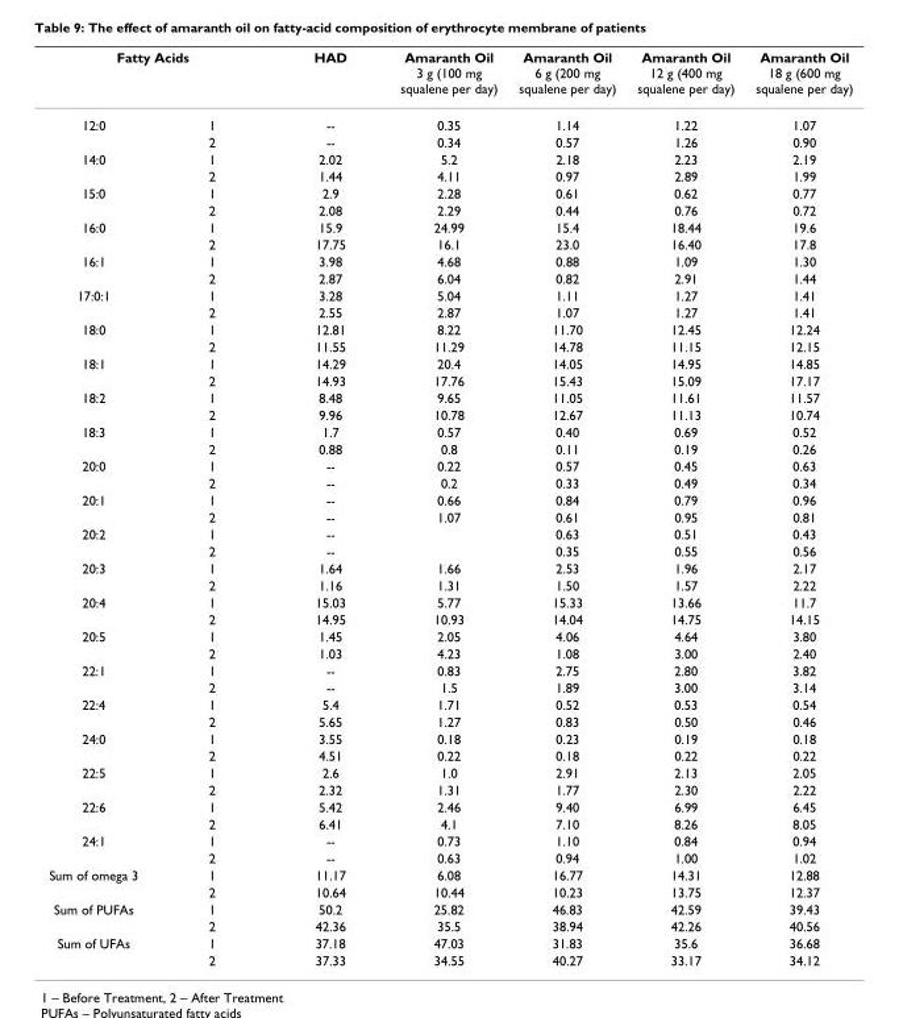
<table><thead><tr><td colspan="2">Fatty Acids</td><td rowspan="2">HAD --</td><td rowspan="2">Amaranth Oil 3 g (100 mg squalene per day) 0.35</td><td rowspan="2">Amaranth Oil 6 g (200 mg squalene per day) 1.14</td><td rowspan="2">Amaranth Oil 12 g (400 mg squalene per day) 1.22</td><td rowspan="2">Amaranth Oil 18 g (600 mg squalene per day) 1.07</td></tr><tr><td>12:0</td><td>1</td></tr></thead><tbody><tr><td></td><td>2</td><td>--</td><td>0.34</td><td>0.57</td><td>1.26</td><td>0.90</td></tr><tr><td rowspan="2">14:0</td><td>1</td><td>2.02</td><td>5.2</td><td>2.18</td><td>2.23</td><td>2.19</td></tr><tr><td>2</td><td>1.44</td><td>4.11</td><td>0.97</td><td>2.89</td><td>1.99</td></tr><tr><td rowspan="2">15:0</td><td>1</td><td>2.9</td><td>2.28</td><td>0.61</td><td>0.62</td><td>0.77</td></tr><tr><td>2</td><td>2.08</td><td>2.29</td><td>0.44</td><td>0.76</td><td>0.72</td></tr><tr><td rowspan="2">16:0</td><td>1</td><td>15.9</td><td>24.99</td><td>15.4</td><td>18.44</td><td>19.6</td></tr><tr><td>2</td><td>17.75</td><td>16.1</td><td>23.0</td><td>16.40</td><td>17.8</td></tr><tr><td rowspan="2">16:1</td><td>1</td><td>3.98</td><td>4.68</td><td>0.88</td><td>1.09</td><td>1.30</td></tr><tr><td>2</td><td>2.87</td><td>6.04</td><td>0.82</td><td>2.91</td><td>1.44</td></tr><tr><td rowspan="2">17:0:1</td><td>1</td><td>3.28</td><td>5.04</td><td>1.11</td><td>1.27</td><td>1.41</td></tr><tr><td>2</td><td>2.55</td><td>2.87</td><td>1.07</td><td>1.27</td><td>1.41</td></tr><tr><td rowspan="2">18:0</td><td>1</td><td>12.81</td><td>8.22</td><td>11.70</td><td>12.45</td><td>12.24</td></tr><tr><td>2</td><td>11.55</td><td>11.29</td><td>14.78</td><td>11.15</td><td>12.15</td></tr><tr><td rowspan="2">18:1</td><td>1</td><td>14.29</td><td>20.4</td><td>14.05</td><td>14.95</td><td>14.85</td></tr><tr><td>2</td><td>14.93</td><td>17.76</td><td>15.43</td><td>15.09</td><td>17.17</td></tr><tr><td rowspan="2">18:2</td><td>1</td><td>8.48</td><td>9.65</td><td>11.05</td><td>11.61</td><td>11.57</td></tr><tr><td>2</td><td>9.96</td><td>10.78</td><td>12.67</td><td>11.13</td><td>10.74</td></tr><tr><td rowspan="2">18:3</td><td>1</td><td>1.7</td><td>0.57</td><td>0.40</td><td>0.69</td><td>0.52</td></tr><tr><td>2</td><td>0.88</td><td>0.8</td><td>0.11</td><td>0.19</td><td>0.26</td></tr><tr><td rowspan="2">20:0</td><td>1</td><td>--</td><td>0.22</td><td>0.57</td><td>0.45</td><td>0.63</td></tr><tr><td>2</td><td>--</td><td>0.2</td><td>0.33</td><td>0.49</td><td>0.34</td></tr><tr><td rowspan="2">20:1</td><td>1</td><td>--</td><td>0.66</td><td>0.84</td><td>0.79</td><td>0.96</td></tr><tr><td>2</td><td>--</td><td>1.07</td><td>0.61</td><td>0.95</td><td>0.81</td></tr><tr><td rowspan="2">20:2</td><td>1</td><td>--</td><td></td><td>0.63</td><td>0.51</td><td>0.43</td></tr><tr><td>2</td><td>--</td><td></td><td>0.35</td><td>0.55</td><td>0.56</td></tr><tr><td rowspan="2">20:3</td><td>1</td><td>1.64</td><td>1.66</td><td>2.53</td><td>1.96</td><td>2.17</td></tr><tr><td>2</td><td>1.16</td><td>1.31</td><td>1.50</td><td>1.57</td><td>2.22</td></tr><tr><td rowspan="2">20:4</td><td>1</td><td>15.03</td><td>5.77</td><td>15.33</td><td>13.66</td><td>11.7</td></tr><tr><td>2</td><td>14.95</td><td>10.93</td><td>14.04</td><td>14.75</td><td>14.15</td></tr><tr><td rowspan="2">20:5</td><td>1</td><td>1.45</td><td>2.05</td><td>4.06</td><td>4.64</td><td>3.80</td></tr><tr><td>2</td><td>1.03</td><td>4.23</td><td>1.08</td><td>3.00</td><td>2.40</td></tr><tr><td rowspan="2">22:1</td><td>1</td><td>--</td><td>0.83</td><td>2.75</td><td>2.80</td><td>3.82</td></tr><tr><td>2</td><td>--</td><td>1.5</td><td>1.89</td><td>3.00</td><td>3.14</td></tr><tr><td rowspan="2">22:4</td><td>1</td><td>5.4</td><td>1.71</td><td>0.52</td><td>0.53</td><td>0.54</td></tr><tr><td>2</td><td>5.65</td><td>1.27</td><td>0.83</td><td>0.50</td><td>0.46</td></tr><tr><td rowspan="2">24:0</td><td>1</td><td>3.55</td><td>0.18</td><td>0.23</td><td>0.19</td><td>0.18</td></tr><tr><td>2</td><td>4.51</td><td>0.22</td><td>0.18</td><td>0.22</td><td>0.22</td></tr><tr><td rowspan="2">22:5</td><td>1</td><td>2.6</td><td>1.0</td><td>2.91</td><td>2.13</td><td>2.05</td></tr><tr><td>2</td><td>2.32</td><td>1.31</td><td>1.77</td><td>2.30</td><td>2.22</td></tr><tr><td rowspan="2">22:6</td><td>1</td><td>5.42</td><td>2.46</td><td>9.40</td><td>6.99</td><td>6.45</td></tr><tr><td>2</td><td>6.41</td><td>4.1</td><td>7.10</td><td>8.26</td><td>8.05</td></tr><tr><td rowspan="2">24:1</td><td>1</td><td>--</td><td>0.73</td><td>1.10</td><td>0.84</td><td>0.94</td></tr><tr><td>2</td><td>--</td><td>0.63</td><td>0.94</td><td>1.00</td><td>1.02</td></tr><tr><td rowspan="2">Sum of omega 3</td><td>1</td><td>11.17</td><td>6.08</td><td>16.77</td><td>14.31</td><td>12.88</td></tr><tr><td>2</td><td>10.64</td><td>10.44</td><td>10.23</td><td>13.75</td><td>12.37</td></tr><tr><td rowspan="2">Sum of PUFAs</td><td>1</td><td>50.2</td><td>25.82</td><td>46.83</td><td>42.59</td><td>39.43</td></tr><tr><td>2</td><td>42.36</td><td>35.5</td><td>38.94</td><td>42.26</td><td>40.56</td></tr><tr><td rowspan="2">Sum of UFAs</td><td>1</td><td>37.18</td><td>47.03</td><td>31.83</td><td>35.6</td><td>36.68</td></tr><tr><td>2</td><td>37.33</td><td>34.55</td><td>40.27</td><td>33.17</td><td>34.12</td></tr></tbody></table>